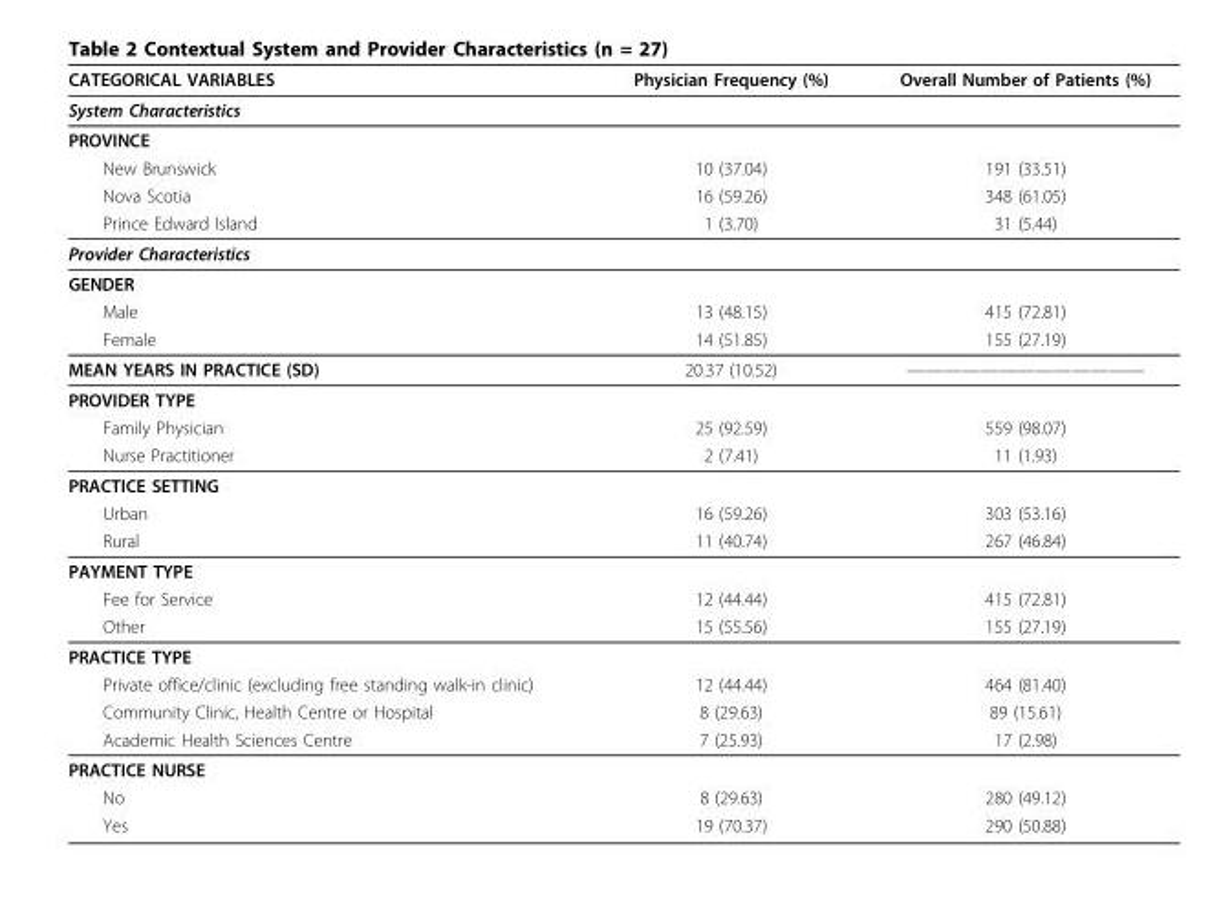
<table><thead><tr><td>CATEGORICAL VARIABLES</td><td>Physician Frequency (%)</td><td>Overall Number of Patients (%)</td></tr></thead><tbody><tr><td colspan="3">System Characteristics</td></tr><tr><td colspan="3">PROVINCE</td></tr><tr><td>New Brunswick</td><td>10 (37.04)</td><td>191 (33.51)</td></tr><tr><td>Nova Scotia</td><td>16 (59.26)</td><td>348 (61.05)</td></tr><tr><td>Prince Edward Island</td><td>1 (3.70)</td><td>31 (5.44)</td></tr><tr><td colspan="3">Provider Characteristics</td></tr><tr><td colspan="3">GENDER</td></tr><tr><td>Male</td><td>13 (48.15)</td><td>415 (72.81)</td></tr><tr><td>Female</td><td>14 (51.85)</td><td>155 (27.19)</td></tr><tr><td>MEAN YEARS IN PRACTICE (SD)</td><td>20.37 (10.52)</td><td>—————————————</td></tr><tr><td colspan="3">PROVIDER TYPE</td></tr><tr><td>Family Physician</td><td>25 (92.59)</td><td>559 (98.07)</td></tr><tr><td>Nurse Practitioner</td><td>2 (7.41)</td><td>11 (1.93)</td></tr><tr><td colspan="3">PRACTICE SETTING</td></tr><tr><td>Urban</td><td>16 (59.26)</td><td>303 (53.16)</td></tr><tr><td>Rural</td><td>11 (40.74)</td><td>267 (46.84)</td></tr><tr><td colspan="3">PAYMENT TYPE</td></tr><tr><td>Fee for Service</td><td>12 (44.44)</td><td>415 (72.81)</td></tr><tr><td>Other</td><td>15 (55.56)</td><td>155 (27.19)</td></tr><tr><td colspan="3">PRACTICE TYPE</td></tr><tr><td>Private office/clinic (excluding free standing walk-in clinic)</td><td>12 (44.44)</td><td>464 (81.40)</td></tr><tr><td>Community Clinic, Health Centre or Hospital</td><td>8 (29.63)</td><td>89 (15.61)</td></tr><tr><td>Academic Health Sciences Centre</td><td>7 (25.93)</td><td>17 (2.98)</td></tr><tr><td colspan="3">PRACTICE NURSE</td></tr><tr><td>No</td><td>8 (29.63)</td><td>280 (49.12)</td></tr><tr><td>Yes</td><td>19 (70.37)</td><td>290 (50.88)</td></tr></tbody></table>